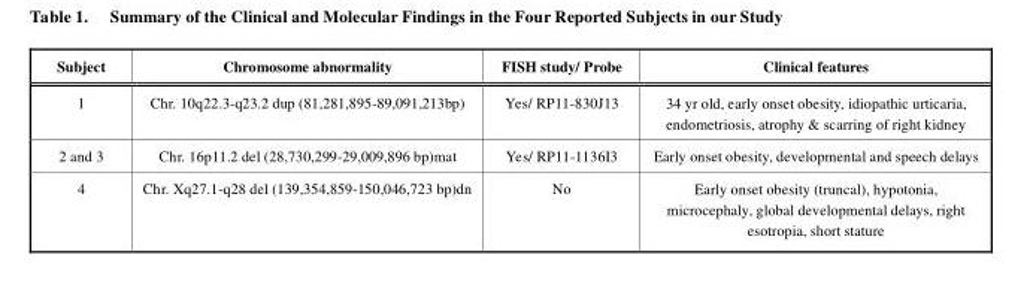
<table><thead><tr><td>Subject</td><td>Chromosome abnormality</td><td>FISH study/ Probe</td><td>Clinical features</td></tr></thead><tbody><tr><td>1</td><td>Chr. 10q22.3-q23.2 dup (81,281,895-89,091,213bp)</td><td>Yes/ RP11-830J13</td><td>34 yr old, early onset obesity, idiopathic urticaria, endometriosis, atrophy &amp; scarring of right kidney</td></tr><tr><td>2 and 3</td><td>Chr. 16p11.2 del (28,730,299-29,009,896 bp)mat</td><td>Yes/ RP11-1136I3</td><td>Early onset obesity, developmental and speech delays</td></tr><tr><td>4</td><td>Chr. Xq27.1-q28 del (139,354,859-150,046,723 bp)dn</td><td>No</td><td>Early onset obesity (truncal), hypotonia, microcephaly, global developmental delays, right esotropia, short stature</td></tr></tbody></table>